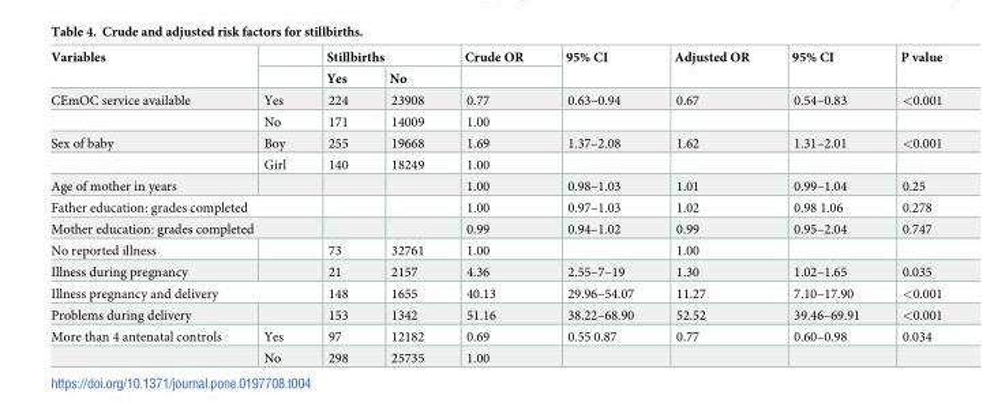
<table><thead><tr><td rowspan="2">Variables</td><td rowspan="2"></td><td colspan="2">Stillbirths</td><td rowspan="2">Crude OR</td><td rowspan="2">95% CI</td><td rowspan="2">Adjusted OR</td><td rowspan="2">95% CI</td><td rowspan="2">P value</td></tr><tr><td>Yes</td><td>No</td></tr></thead><tbody><tr><td rowspan="2">CEmOC service available</td><td>Yes</td><td>224</td><td>23908</td><td>0.77</td><td>0.63–0.94</td><td>0.67</td><td>0.54–0.83</td><td>&lt;0.001</td></tr><tr><td>No</td><td>171</td><td>14009</td><td>1.00</td><td></td><td></td><td></td><td></td></tr><tr><td rowspan="2">Sex of baby</td><td>Boy</td><td>255</td><td>19668</td><td>1.69</td><td>1.37–2.08</td><td>1.62</td><td>1.31–2.01</td><td>&lt;0.001</td></tr><tr><td>Girl</td><td>140</td><td>18249</td><td>1.00</td><td></td><td></td><td></td><td></td></tr><tr><td>Age of mother in years</td><td></td><td></td><td></td><td>1.00</td><td>0.98–1.03</td><td>1.01</td><td>0.99–1.04</td><td>0.25</td></tr><tr><td colspan="2">Father education: grades completed</td><td></td><td></td><td>1.00</td><td>0.97–1.03</td><td>1.02</td><td>0.98 1.06</td><td>0.278</td></tr><tr><td colspan="2">Mother education: grades completed</td><td></td><td></td><td>0.99</td><td>0.94–1.02</td><td>0.99</td><td>0.95–2.04</td><td>0.747</td></tr><tr><td>No reported illness</td><td></td><td>73</td><td>32761</td><td>1.00</td><td></td><td>1.00</td><td></td><td></td></tr><tr><td>Illness during pregnancy</td><td></td><td>21</td><td>2157</td><td>4.36</td><td>2.55–7–19</td><td>1.30</td><td>1.02–1.65</td><td>0.035</td></tr><tr><td colspan="2">Illness pregnancy and delivery</td><td>148</td><td>1655</td><td>40.13</td><td>29.96–54.07</td><td>11.27</td><td>7.10–17.90</td><td>&lt;0.001</td></tr><tr><td>Problems during delivery</td><td></td><td>153</td><td>1342</td><td>51.16</td><td>38.22–68.90</td><td>52.52</td><td>39.46–69.91</td><td>&lt;0.001</td></tr><tr><td rowspan="2">More than 4 antenatal controls</td><td>Yes</td><td>97</td><td>12182</td><td>0.69</td><td>0.55 0.87</td><td>0.77</td><td>0.60–0.98</td><td>0.034</td></tr><tr><td>No</td><td>298</td><td>25735</td><td>1.00</td><td></td><td></td><td></td><td></td></tr></tbody></table>